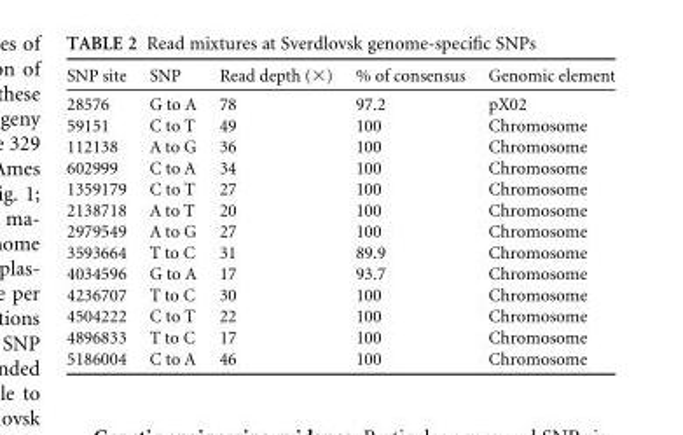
<table><thead><tr><td>SNP site</td><td>SNP</td><td>Read depth (×)</td><td>% of consensus</td><td>Genomic element</td></tr></thead><tbody><tr><td>28576</td><td>G to A</td><td>78</td><td>97.2</td><td>pX02</td></tr><tr><td>59151</td><td>C to T</td><td>49</td><td>100</td><td>Chromosome</td></tr><tr><td>112138</td><td>A to G</td><td>36</td><td>100</td><td>Chromosome</td></tr><tr><td>602999</td><td>C to A</td><td>34</td><td>100</td><td>Chromosome</td></tr><tr><td>1359179</td><td>C to T</td><td>27</td><td>100</td><td>Chromosome</td></tr><tr><td>2138718</td><td>A to T</td><td>20</td><td>100</td><td>Chromosome</td></tr><tr><td>2979549</td><td>A to G</td><td>27</td><td>100</td><td>Chromosome</td></tr><tr><td>3593664</td><td>T to C</td><td>31</td><td>89.9</td><td>Chromosome</td></tr><tr><td>4034596</td><td>G to A</td><td>17</td><td>93.7</td><td>Chromosome</td></tr><tr><td>4236707</td><td>T to C</td><td>30</td><td>100</td><td>Chromosome</td></tr><tr><td>4504222</td><td>C to T</td><td>22</td><td>100</td><td>Chromosome</td></tr><tr><td>4896833</td><td>T to C</td><td>17</td><td>100</td><td>Chromosome</td></tr><tr><td>5186004</td><td>C to A</td><td>46</td><td>100</td><td>Chromosome</td></tr></tbody></table>